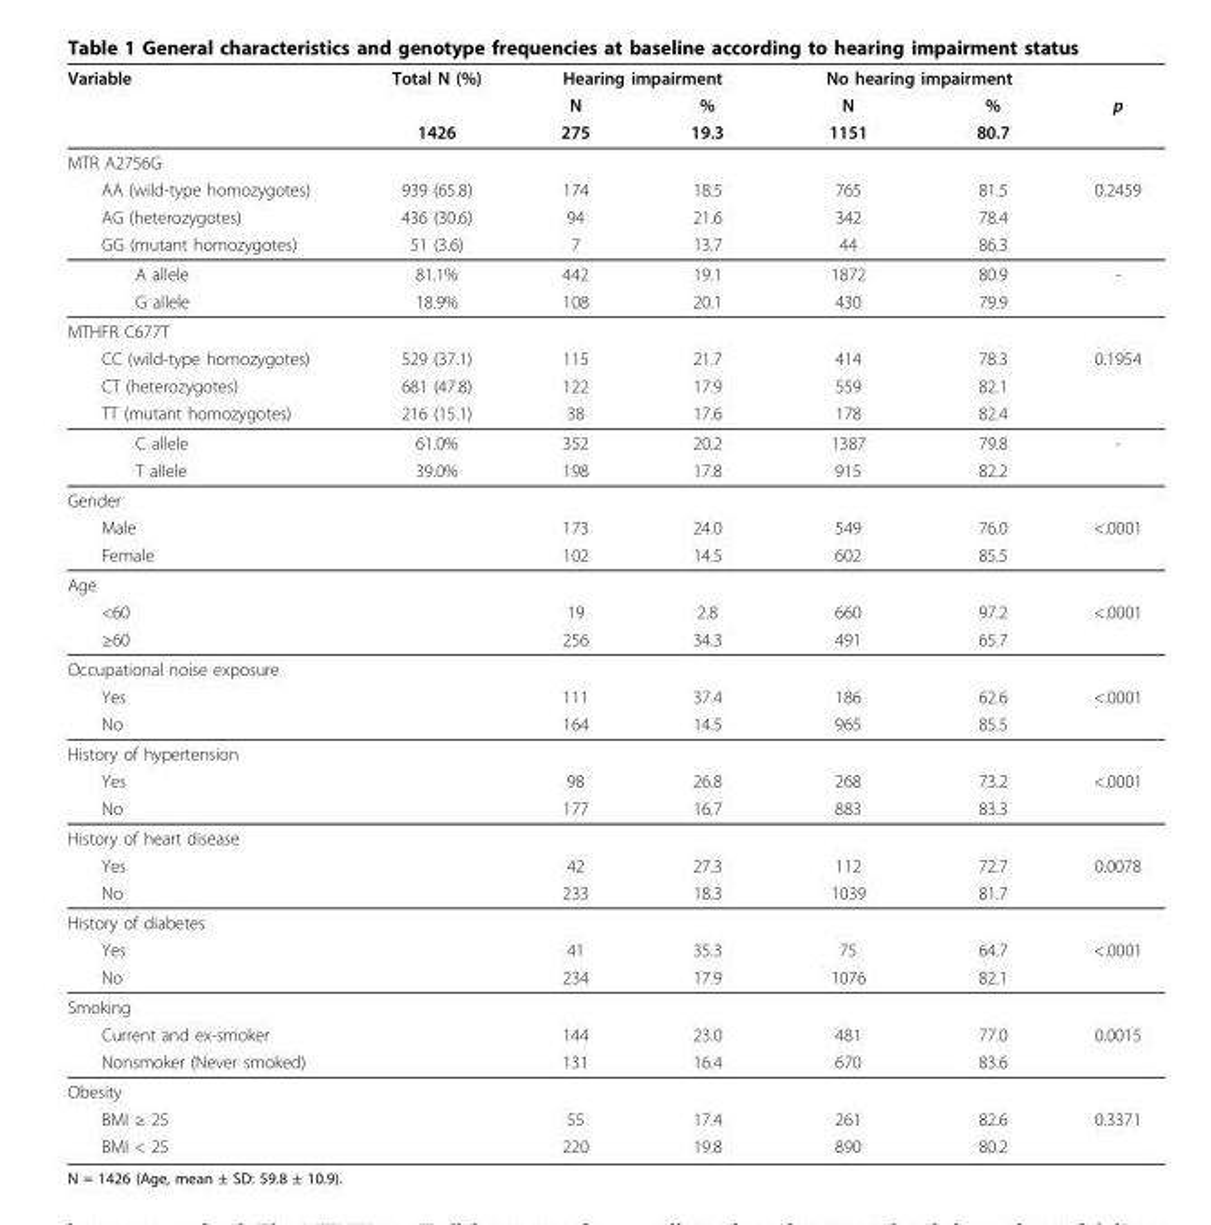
<table><thead><tr><td rowspan="3">Variable</td><td rowspan="3">Total N (%) 1426</td><td colspan="2">Hearing impairment</td><td colspan="2">No hearing impairment</td><td rowspan="3">p</td></tr><tr><td rowspan="2">N 275</td><td rowspan="2">% 19.3</td><td rowspan="2">N 1151</td><td rowspan="2">% 80.7</td></tr><tr></tr></thead><tbody><tr><td colspan="7">MTR A2756G</td></tr><tr><td>AA (wild-type homozygotes)</td><td>939 (65.8)</td><td>174</td><td>18.5</td><td>765</td><td>81.5</td><td>0.2459</td></tr><tr><td>AG (heterozygotes)</td><td>436 (30.6)</td><td>94</td><td>21.6</td><td>342</td><td>78.4</td><td></td></tr><tr><td>GG (mutant homozygotes)</td><td>51 (3.6)</td><td>7</td><td>13.7</td><td>44</td><td>86.3</td><td></td></tr><tr><td>A allele</td><td>81.1%</td><td>442</td><td>19.1</td><td>1872</td><td>80.9</td><td>-</td></tr><tr><td>G allele</td><td>18.9%</td><td>108</td><td>20.1</td><td>430</td><td>79.9</td><td></td></tr><tr><td colspan="7">MTHFR C677T</td></tr><tr><td>CC (wild-type homozygotes)</td><td>529 (37.1)</td><td>115</td><td>21.7</td><td>414</td><td>78.3</td><td>0.1954</td></tr><tr><td>CT (heterozygotes)</td><td>681 (47.8)</td><td>122</td><td>17.9</td><td>559</td><td>82.1</td><td></td></tr><tr><td>TT (mutant homozygotes)</td><td>216 (15.1)</td><td>38</td><td>17.6</td><td>178</td><td>82.4</td><td></td></tr><tr><td>C allele</td><td>61.0%</td><td>352</td><td>20.2</td><td>1387</td><td>79.8</td><td>-</td></tr><tr><td>T allele</td><td>39.0%</td><td>198</td><td>17.8</td><td>915</td><td>82.2</td><td></td></tr><tr><td colspan="7">Gender</td></tr><tr><td colspan="2">Male</td><td>173</td><td>24.0</td><td>549</td><td>76.0</td><td>&lt;.0001</td></tr><tr><td colspan="2">Female</td><td>102</td><td>14.5</td><td>602</td><td>85.5</td><td></td></tr><tr><td colspan="7">Age</td></tr><tr><td colspan="2">&lt;60</td><td>19</td><td>2.8</td><td>660</td><td>97.2</td><td>&lt;.0001</td></tr><tr><td colspan="2">≥60</td><td>256</td><td>34.3</td><td>491</td><td>65.7</td><td></td></tr><tr><td colspan="7">Occupational noise exposure</td></tr><tr><td colspan="2">Yes</td><td>111</td><td>37.4</td><td>186</td><td>62.6</td><td>&lt;.0001</td></tr><tr><td colspan="2">No</td><td>164</td><td>14.5</td><td>965</td><td>85.5</td><td></td></tr><tr><td colspan="7">History of hypertension</td></tr><tr><td colspan="2">Yes</td><td>98</td><td>26.8</td><td>268</td><td>73.2</td><td>&lt;.0001</td></tr><tr><td colspan="2">No</td><td>177</td><td>16.7</td><td>883</td><td>83.3</td><td></td></tr><tr><td colspan="7">History of heart disease</td></tr><tr><td colspan="2">Yes</td><td>42</td><td>27.3</td><td>112</td><td>72.7</td><td>0.0078</td></tr><tr><td colspan="2">No</td><td>233</td><td>18.3</td><td>1039</td><td>81.7</td><td></td></tr><tr><td colspan="7">History of diabetes</td></tr><tr><td colspan="2">Yes</td><td>41</td><td>35.3</td><td>75</td><td>64.7</td><td>&lt;.0001</td></tr><tr><td colspan="2">No</td><td>234</td><td>17.9</td><td>1076</td><td>82.1</td><td></td></tr><tr><td colspan="7">Smoking</td></tr><tr><td colspan="2">Current and ex-smoker</td><td>144</td><td>23.0</td><td>481</td><td>77.0</td><td>0.0015</td></tr><tr><td colspan="2">Nonsmoker (Never smoked)</td><td>131</td><td>16.4</td><td>670</td><td>83.6</td><td></td></tr><tr><td colspan="7">Obesity</td></tr><tr><td colspan="2">BMI ≥ 25</td><td>55</td><td>17.4</td><td>261</td><td>82.6</td><td>0.3371</td></tr><tr><td colspan="2">BMI &lt; 25</td><td>220</td><td>19.8</td><td>890</td><td>80.2</td><td></td></tr></tbody></table>